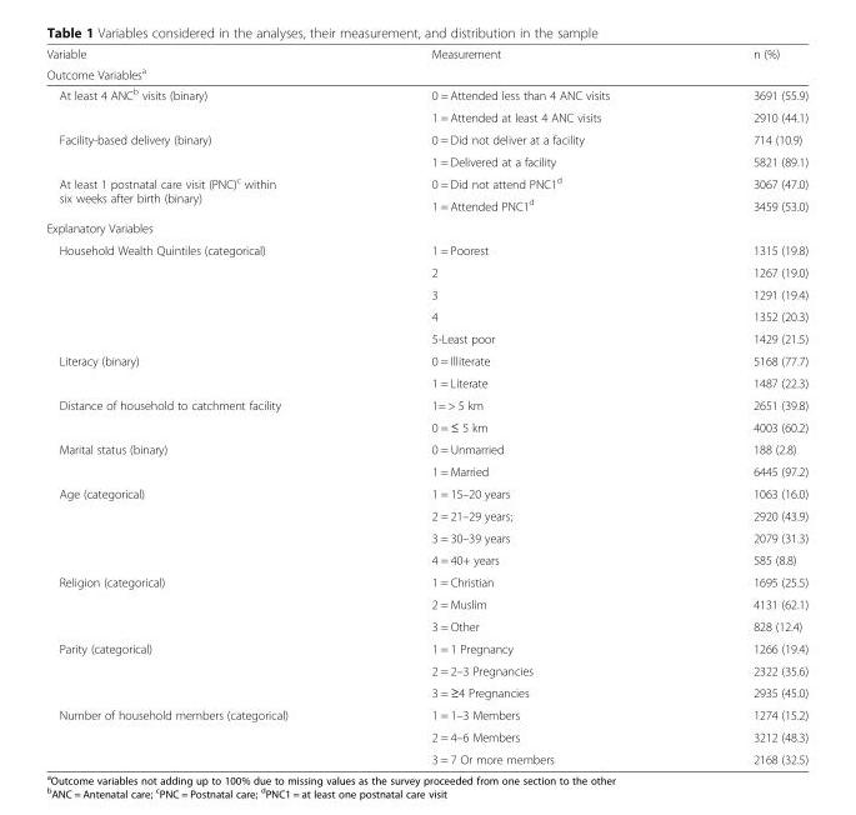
<table><thead><tr><td rowspan="2">Variable Outcome Variables<sup>a</sup></td><td rowspan="2">Measurement</td><td rowspan="2">n (%)</td></tr><tr></tr></thead><tbody><tr><td rowspan="2">At least 4 ANC<sup>b</sup> visits (binary)</td><td>0 = Attended less than 4 ANC visits</td><td>3691 (55.9)</td></tr><tr><td>1 = Attended at least 4 ANC visits</td><td>2910 (44.1)</td></tr><tr><td rowspan="2">Facility-based delivery (binary)</td><td>0 = Did not deliver at a facility</td><td>714 (10.9)</td></tr><tr><td>1 = Delivered at a facility</td><td>5821 (89.1)</td></tr><tr><td rowspan="2">At least 1 postnatal care visit (PNC)<sup>c</sup> within six weeks after birth (binary)</td><td>0 = Did not attend PNC1<sup>d</sup></td><td>3067 (47.0)</td></tr><tr><td>1 = Attended PNC1<sup>d</sup></td><td>3459 (53.0)</td></tr><tr><td colspan="3">Explanatory Variables</td></tr><tr><td rowspan="5">Household Wealth Quintiles (categorical)</td><td>1 = Poorest</td><td>1315 (19.8)</td></tr><tr><td>2</td><td>1267 (19.0)</td></tr><tr><td>3</td><td>1291 (19.4)</td></tr><tr><td>4</td><td>1352 (20.3)</td></tr><tr><td>5-Least poor</td><td>1429 (21.5)</td></tr><tr><td rowspan="2">Literacy (binary)</td><td>0 = Illiterate</td><td>5168 (77.7)</td></tr><tr><td>1 = Literate</td><td>1487 (22.3)</td></tr><tr><td rowspan="2">Distance of household to catchment facility</td><td>1= &gt; 5 km</td><td>2651 (39.8)</td></tr><tr><td>0 = ≤ 5 km</td><td>4003 (60.2)</td></tr><tr><td rowspan="2">Marital status (binary)</td><td>0 = Unmarried</td><td>188 (2.8)</td></tr><tr><td>1 = Married</td><td>6445 (97.2)</td></tr><tr><td rowspan="4">Age (categorical)</td><td>1 = 15–20 years</td><td>1063 (16.0)</td></tr><tr><td>2 = 21–29 years;</td><td>2920 (43.9)</td></tr><tr><td>3 = 30–39 years</td><td>2079 (31.3)</td></tr><tr><td>4 = 40+ years</td><td>585 (8.8)</td></tr><tr><td rowspan="3">Religion (categorical)</td><td>1 = Christian</td><td>1695 (25.5)</td></tr><tr><td>2 = Muslim</td><td>4131 (62.1)</td></tr><tr><td>3 = Other</td><td>828 (12.4)</td></tr><tr><td rowspan="3">Parity (categorical)</td><td>1 = 1 Pregnancy</td><td>1266 (19.4)</td></tr><tr><td>2 = 2–3 Pregnancies</td><td>2322 (35.6)</td></tr><tr><td>3 = ≥4 Pregnancies</td><td>2935 (45.0)</td></tr><tr><td rowspan="3">Number of household members (categorical)</td><td>1 = 1–3 Members</td><td>1274 (15.2)</td></tr><tr><td>2 = 4–6 Members</td><td>3212 (48.3)</td></tr><tr><td>3 = 7 Or more members</td><td>2168 (32.5)</td></tr></tbody></table>